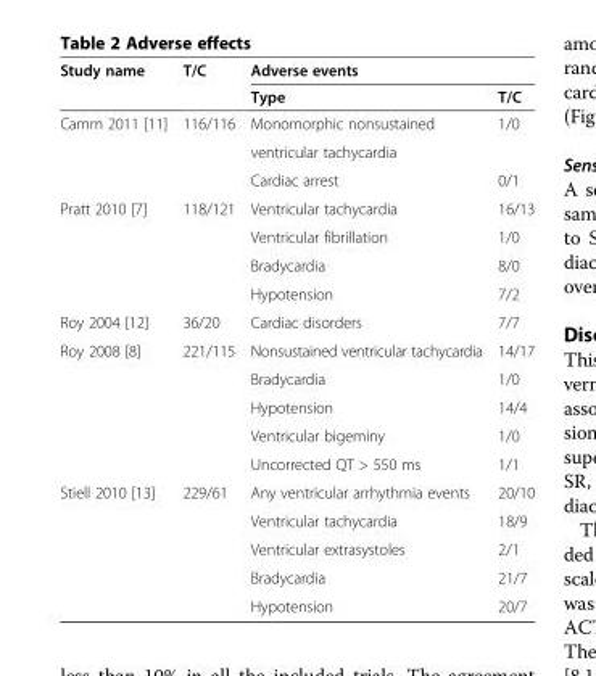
<table><thead><tr><td rowspan="2">Study name</td><td rowspan="2">T/C</td><td colspan="2">Adverse events</td></tr><tr><td>Type</td><td>T/C</td></tr></thead><tbody><tr><td rowspan="3">Camm 2011 [11]</td><td>116/116</td><td>Monomorphic nonsustained</td><td>1/0</td></tr><tr><td></td><td>ventricular tachycardia</td><td></td></tr><tr><td></td><td>Cardiac arrest</td><td>0/1</td></tr><tr><td rowspan="4">Pratt 2010 [7]</td><td>118/121</td><td>Ventricular tachycardia</td><td>16/13</td></tr><tr><td></td><td>Ventricular fibrillation</td><td>1/0</td></tr><tr><td></td><td>Bradycardia</td><td>8/0</td></tr><tr><td></td><td>Hypotension</td><td>7/2</td></tr><tr><td>Roy 2004 [12]</td><td>36/20</td><td>Cardiac disorders</td><td>7/7</td></tr><tr><td rowspan="5">Roy 2008 [8]</td><td>221/115</td><td>Nonsustained ventricular tachycardia</td><td>14/17</td></tr><tr><td></td><td>Bradycardia</td><td>1/0</td></tr><tr><td></td><td>Hypotension</td><td>14/4</td></tr><tr><td></td><td>Ventricular bigeminy</td><td>1/0</td></tr><tr><td></td><td>Uncorrected QT &gt; 550 ms</td><td>1/1</td></tr><tr><td rowspan="5">Stiell 2010 [13]</td><td>229/61</td><td>Any ventricular arrhythmia events</td><td>20/10</td></tr><tr><td></td><td>Ventricular tachycardia</td><td>18/9</td></tr><tr><td></td><td>Ventricular extrasystoles</td><td>2/1</td></tr><tr><td></td><td>Bradycardia</td><td>21/7</td></tr><tr><td></td><td>Hypotension</td><td>20/7</td></tr></tbody></table>